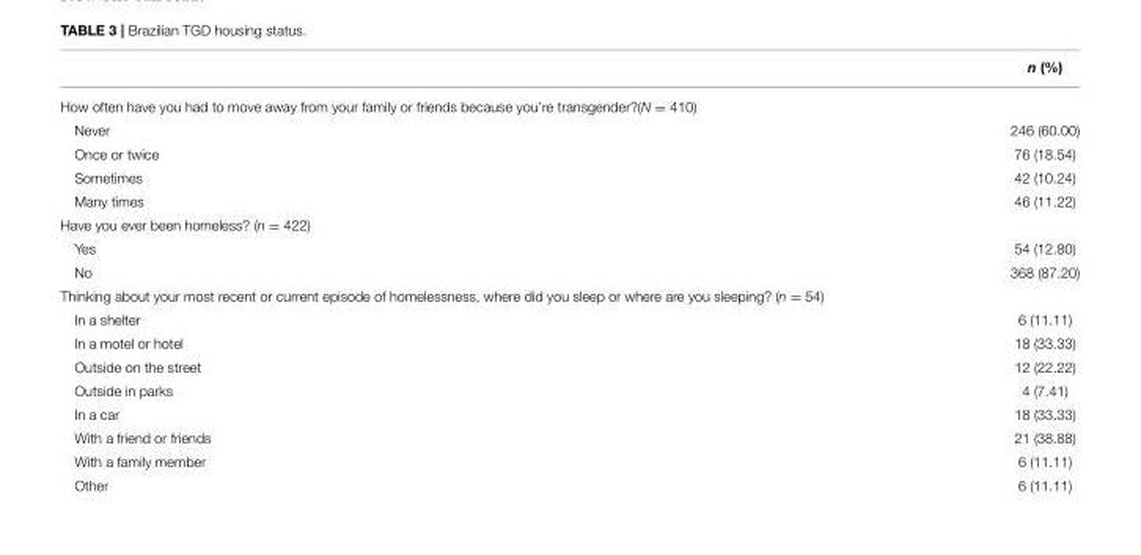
<table><thead><tr><td></td><td>n (%)</td></tr></thead><tbody><tr><td colspan="2">How often have you had to move away from your family or friends because you’re transgender?(N = 410)</td></tr><tr><td>Never</td><td>246 (60.00)</td></tr><tr><td>Once or twice</td><td>76 (18.54)</td></tr><tr><td>Sometimes</td><td>42 (10.24)</td></tr><tr><td>Many times</td><td>46 (11.22)</td></tr><tr><td colspan="2">Have you ever been homeless? (n = 422)</td></tr><tr><td>Yes</td><td>54 (12.80)</td></tr><tr><td>No</td><td>368 (87.20)</td></tr><tr><td colspan="2">Thinking about your most recent or current episode of homelessness, where did you sleep or where are you sleeping? (n = 54)</td></tr><tr><td>In a shelter</td><td>6 (11.11)</td></tr><tr><td>In a motel or hotel</td><td>18 (33.33)</td></tr><tr><td>Outside on the street</td><td>12 (22.22)</td></tr><tr><td>Outside in parks</td><td>4 (7.41)</td></tr><tr><td>In a car</td><td>18 (33.33)</td></tr><tr><td>With a friend or friends</td><td>21 (38.88)</td></tr><tr><td>With a family member</td><td>6 (11.11)</td></tr><tr><td>Other</td><td>6 (11.11)</td></tr></tbody></table>